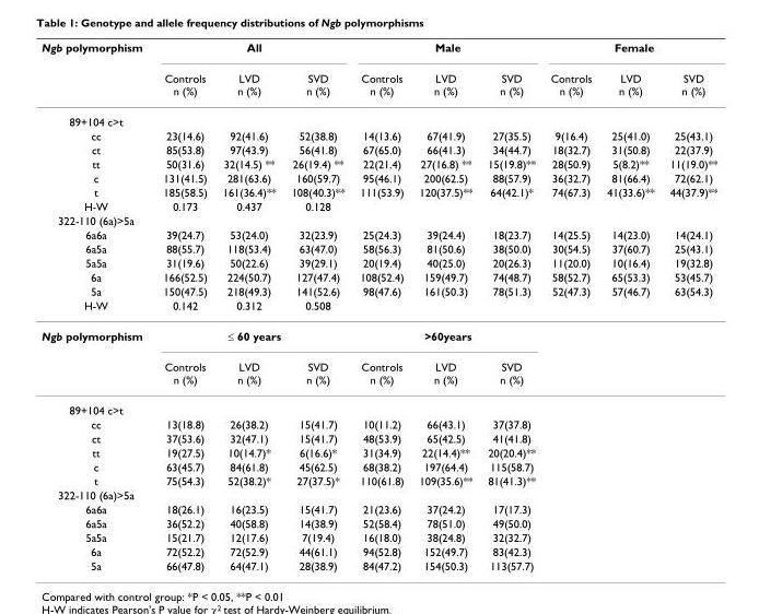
<table><thead><tr><td rowspan="2">Ngb polymorphism</td><td colspan="3">All</td><td colspan="3">Male</td><td colspan="3">Female</td></tr><tr><td>Controls n (%)</td><td>LVD n (%)</td><td>SVD n (%)</td><td>Controls n (%)</td><td>LVD n (%)</td><td>SVD n (%)</td><td>Controls n (%)</td><td>LVD n (%)</td><td>SVD n (%)</td></tr></thead><tbody><tr><td colspan="10">89+104 c&gt;t</td></tr><tr><td>cc</td><td>23(14.6)</td><td>92(41.6)</td><td>52(38.8)</td><td>14(13.6)</td><td>67(41.9)</td><td>27(35.5)</td><td>9(16.4)</td><td>25(41.0)</td><td>25(43.1)</td></tr><tr><td>ct</td><td>85(53.8)</td><td>97(43.9)</td><td>56(41.8)</td><td>67(65.0)</td><td>66(41.3)</td><td>34(44.7)</td><td>18(32.7)</td><td>31(50.8)</td><td>22(37.9)</td></tr><tr><td>tt</td><td>50(31.6)</td><td>32(14.5) **</td><td>26(19.4) **</td><td>22(21.4)</td><td>27(16.8) **</td><td>15(19.8)**</td><td>28(50.9)</td><td>5(8.2)**</td><td>11(19.0)**</td></tr><tr><td>c</td><td>131(41.5)</td><td>281(63.6)</td><td>160(59.7)</td><td>95(46.1)</td><td>200(62.5)</td><td>88(57.9)</td><td>36(32.7)</td><td>81(66.4)</td><td>72(62.1)</td></tr><tr><td>t</td><td>185(58.5)</td><td>161(36.4)**</td><td>108(40.3)**</td><td>111(53.9)</td><td>120(37.5)**</td><td>64(42.1)*</td><td>74(67.3)</td><td>41(33.6)**</td><td>44(37.9)**</td></tr><tr><td>H-W</td><td>0.173</td><td>0.437</td><td>0.128</td><td></td><td></td><td></td><td></td><td></td><td></td></tr><tr><td colspan="10">322-110 (6a)&gt;5a</td></tr><tr><td>6a6a</td><td>39(24.7)</td><td>53(24.0)</td><td>32(23.9)</td><td>25(24.3)</td><td>39(24.4)</td><td>18(23.7)</td><td>14(25.5)</td><td>14(23.0)</td><td>14(24.1)</td></tr><tr><td>6a5a</td><td>88(55.7)</td><td>118(53.4)</td><td>63(47.0)</td><td>58(56.3)</td><td>81(50.6)</td><td>38(50.0)</td><td>30(54.5)</td><td>37(60.7)</td><td>25(43.1)</td></tr><tr><td>5a5a</td><td>31(19.6)</td><td>50(22.6)</td><td>39(29.1)</td><td>20(19.4)</td><td>40(25.0)</td><td>20(26.3)</td><td>11(20.0)</td><td>10(16.4)</td><td>19(32.8)</td></tr><tr><td>6a</td><td>166(52.5)</td><td>224(50.7)</td><td>127(47.4)</td><td>108(52.4)</td><td>159(49.7)</td><td>74(48.7)</td><td>58(52.7)</td><td>65(53.3)</td><td>53(45.7)</td></tr><tr><td>5a</td><td>150(47.5)</td><td>218(49.3)</td><td>141(52.6)</td><td>98(47.6)</td><td>161(50.3)</td><td>78(51.3)</td><td>52(47.3)</td><td>57(46.7)</td><td>63(54.3)</td></tr><tr><td>H-W</td><td>0.142</td><td>0.312</td><td>0.508</td><td></td><td></td><td></td><td></td><td></td><td></td></tr><tr><td rowspan="2">Ngb polymorphism</td><td colspan="3">≤ 60 years</td><td colspan="3">&gt;60years</td><td></td><td></td><td></td></tr><tr><td>Controls n (%)</td><td>LVD n (%)</td><td>SVD n (%)</td><td>Controls n (%)</td><td>LVD n (%)</td><td>SVD n (%)</td><td></td><td></td><td></td></tr><tr><td colspan="10">89+104 c&gt;t</td></tr><tr><td>cc</td><td>13(18.8)</td><td>26(38.2)</td><td>15(41.7)</td><td>10(11.2)</td><td>66(43.1)</td><td>37(37.8)</td><td></td><td></td><td></td></tr><tr><td>ct</td><td>37(53.6)</td><td>32(47.1)</td><td>15(41.7)</td><td>48(53.9)</td><td>65(42.5)</td><td>41(41.8)</td><td></td><td></td><td></td></tr><tr><td>tt</td><td>19(27.5)</td><td>10(14.7)*</td><td>6(16.6)*</td><td>31(34.9)</td><td>22(14.4)**</td><td>20(20.4)**</td><td></td><td></td><td></td></tr><tr><td>c</td><td>63(45.7)</td><td>84(61.8)</td><td>45(62.5)</td><td>68(38.2)</td><td>197(64.4)</td><td>115(58.7)</td><td></td><td></td><td></td></tr><tr><td>t</td><td>75(54.3)</td><td>52(38.2)*</td><td>27(37.5)*</td><td>110(61.8)</td><td>109(35.6)**</td><td>81(41.3)**</td><td></td><td></td><td></td></tr><tr><td colspan="10">322-110 (6a)&gt;5a</td></tr><tr><td>6a6a</td><td>18(26.1)</td><td>16(23.5)</td><td>15(41.7)</td><td>21(23.6)</td><td>37(24.2)</td><td>17(17.3)</td><td></td><td></td><td></td></tr><tr><td>6a5a</td><td>36(52.2)</td><td>40(58.8)</td><td>14(38.9)</td><td>52(58.4)</td><td>78(51.0)</td><td>49(50.0)</td><td></td><td></td><td></td></tr><tr><td>5a5a</td><td>15(21.7)</td><td>12(17.6)</td><td>7(19.4)</td><td>16(18.0)</td><td>38(24.8)</td><td>32(32.7)</td><td></td><td></td><td></td></tr><tr><td>6a</td><td>72(52.2)</td><td>72(52.9)</td><td>44(61.1)</td><td>94(52.8)</td><td>152(49.7)</td><td>83(42.3)</td><td></td><td></td><td></td></tr><tr><td>5a</td><td>66(47.8)</td><td>64(47.1)</td><td>28(38.9)</td><td>84(47.2)</td><td>154(50.3)</td><td>113(57.7)</td><td></td><td></td><td></td></tr></tbody></table>